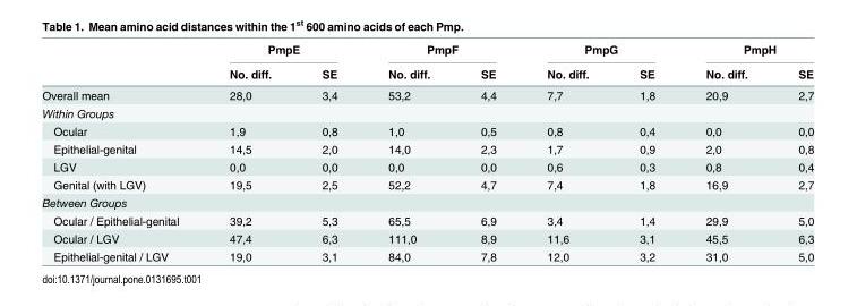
<table><thead><tr><td rowspan="2"></td><td colspan="2">PmpE</td><td colspan="2">PmpF</td><td colspan="2">PmpG</td><td colspan="2">PmpH</td></tr><tr><td>No. diff.</td><td>SE</td><td>No. diff.</td><td>SE</td><td>No. diff.</td><td>SE</td><td>No. diff.</td><td>SE</td></tr></thead><tbody><tr><td>Overall mean</td><td>28,0</td><td>3,4</td><td>53,2</td><td>4,4</td><td>7,7</td><td>1,8</td><td>20,9</td><td>2,7</td></tr><tr><td colspan="9">Within Groups</td></tr><tr><td>Ocular</td><td>1,9</td><td>0,8</td><td>1,0</td><td>0,5</td><td>0,8</td><td>0,4</td><td>0,0</td><td>0,0</td></tr><tr><td>Epithelial-genital</td><td>14,5</td><td>2,0</td><td>14,0</td><td>2,3</td><td>1,7</td><td>0,9</td><td>2,0</td><td>0,8</td></tr><tr><td>LGV</td><td>0,0</td><td>0,0</td><td>0,0</td><td>0,0</td><td>0,6</td><td>0,3</td><td>0,8</td><td>0,4</td></tr><tr><td>Genital (with LGV)</td><td>19,5</td><td>2,5</td><td>52,2</td><td>4,7</td><td>7,4</td><td>1,8</td><td>16,9</td><td>2,7</td></tr><tr><td colspan="9">Between Groups</td></tr><tr><td>Ocular / Epithelial-genital</td><td>39,2</td><td>5,3</td><td>65,5</td><td>6,9</td><td>3,4</td><td>1,4</td><td>29,9</td><td>5,0</td></tr><tr><td>Ocular / LGV</td><td>47,4</td><td>6,3</td><td>111,0</td><td>8,9</td><td>11,6</td><td>3,1</td><td>45,5</td><td>6,3</td></tr><tr><td>Epithelial-genital / LGV</td><td>19,0</td><td>3,1</td><td>84,0</td><td>7,8</td><td>12,0</td><td>3,2</td><td>31,0</td><td>5,0</td></tr></tbody></table>